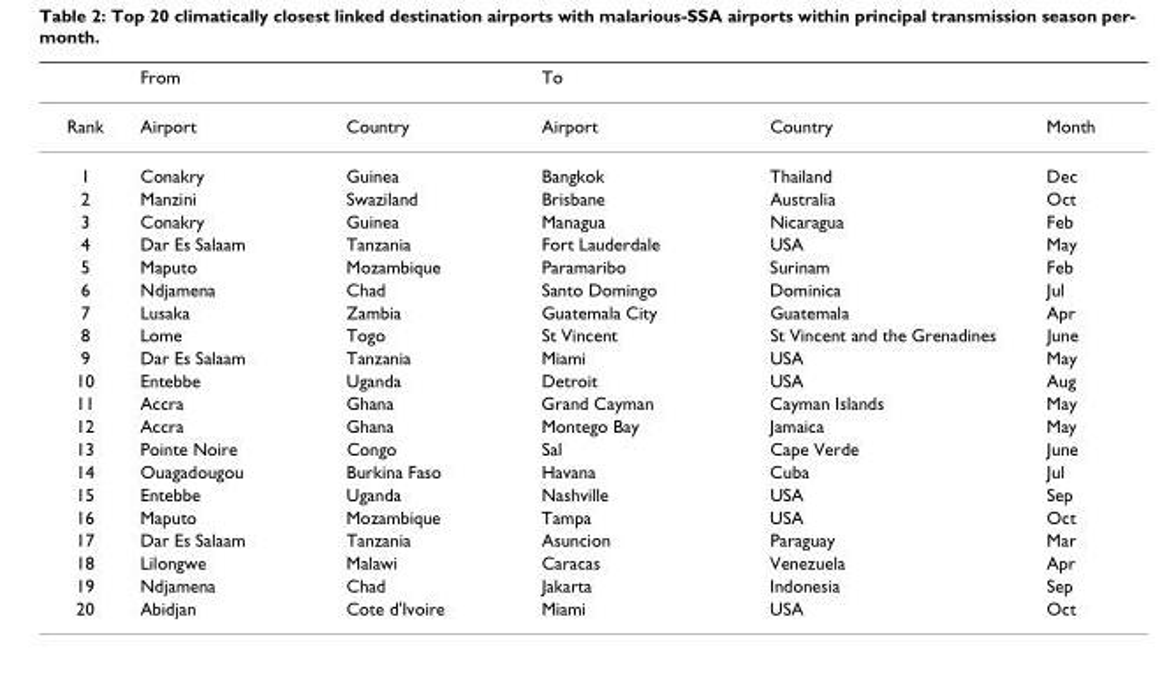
<table><thead><tr><td rowspan="2">Rank</td><td colspan="2">From</td><td colspan="2">To</td><td rowspan="2">Month</td></tr><tr><td>Airport</td><td>Country</td><td>Airport</td><td>Country</td></tr></thead><tbody><tr><td>1</td><td>Conakry</td><td>Guinea</td><td>Bangkok</td><td>Thailand</td><td>Dec</td></tr><tr><td>2</td><td>Manzini</td><td>Swaziland</td><td>Brisbane</td><td>Australia</td><td>Oct</td></tr><tr><td>3</td><td>Conakry</td><td>Guinea</td><td>Managua</td><td>Nicaragua</td><td>Feb</td></tr><tr><td>4</td><td>Dar Es Salaam</td><td>Tanzania</td><td>Fort Lauderdale</td><td>USA</td><td>May</td></tr><tr><td>5</td><td>Maputo</td><td>Mozambique</td><td>Paramaribo</td><td>Surinam</td><td>Feb</td></tr><tr><td>6</td><td>Ndjamena</td><td>Chad</td><td>Santo Domingo</td><td>Dominica</td><td>Jul</td></tr><tr><td>7</td><td>Lusaka</td><td>Zambia</td><td>Guatemala City</td><td>Guatemala</td><td>Apr</td></tr><tr><td>8</td><td>Lome</td><td>Togo</td><td>St Vincent</td><td>St Vincent and the Grenadines</td><td>June</td></tr><tr><td>9</td><td>Dar Es Salaam</td><td>Tanzania</td><td>Miami</td><td>USA</td><td>May</td></tr><tr><td>10</td><td>Entebbe</td><td>Uganda</td><td>Detroit</td><td>USA</td><td>Aug</td></tr><tr><td>11</td><td>Accra</td><td>Ghana</td><td>Grand Cayman</td><td>Cayman Islands</td><td>May</td></tr><tr><td>12</td><td>Accra</td><td>Ghana</td><td>Montego Bay</td><td>Jamaica</td><td>May</td></tr><tr><td>13</td><td>Pointe Noire</td><td>Congo</td><td>Sal</td><td>Cape Verde</td><td>June</td></tr><tr><td>14</td><td>Ouagadougou</td><td>Burkina Faso</td><td>Havana</td><td>Cuba</td><td>Jul</td></tr><tr><td>15</td><td>Entebbe</td><td>Uganda</td><td>Nashville</td><td>USA</td><td>Sep</td></tr><tr><td>16</td><td>Maputo</td><td>Mozambique</td><td>Tampa</td><td>USA</td><td>Oct</td></tr><tr><td>17</td><td>Dar Es Salaam</td><td>Tanzania</td><td>Asuncion</td><td>Paraguay</td><td>Mar</td></tr><tr><td>18</td><td>Lilongwe</td><td>Malawi</td><td>Caracas</td><td>Venezuela</td><td>Apr</td></tr><tr><td>19</td><td>Ndjamena</td><td>Chad</td><td>Jakarta</td><td>Indonesia</td><td>Sep</td></tr><tr><td>20</td><td>Abidjan</td><td>Cote d&#x27;Ivoire</td><td>Miami</td><td>USA</td><td>Oct</td></tr></tbody></table>